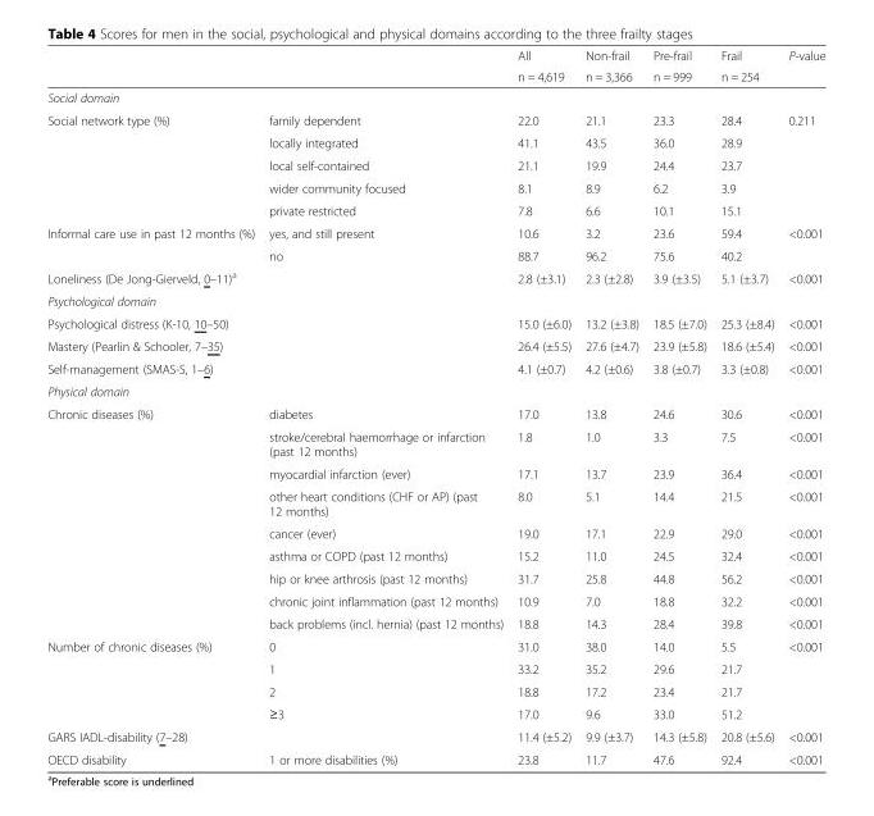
<table><thead><tr><td rowspan="2"></td><td rowspan="2"></td><td rowspan="2">All n = 4,619</td><td rowspan="2">Non-frail n = 3,366</td><td rowspan="2">Pre-frail n = 999</td><td rowspan="2">Frail n = 254</td><td rowspan="2">P-value</td></tr><tr></tr></thead><tbody><tr><td colspan="7">Social domain</td></tr><tr><td rowspan="5">Social network type (%)</td><td>family dependent</td><td>22.0</td><td>21.1</td><td>23.3</td><td>28.4</td><td rowspan="5">0.211</td></tr><tr><td>locally integrated</td><td>41.1</td><td>43.5</td><td>36.0</td><td>28.9</td></tr><tr><td>local self-contained</td><td>21.1</td><td>19.9</td><td>24.4</td><td>23.7</td></tr><tr><td>wider community focused</td><td>8.1</td><td>8.9</td><td>6.2</td><td>3.9</td></tr><tr><td>private restricted</td><td>7.8</td><td>6.6</td><td>10.1</td><td>15.1</td></tr><tr><td rowspan="2">Informal care use in past 12 months (%)</td><td>yes, and still present</td><td>10.6</td><td>3.2</td><td>23.6</td><td>59.4</td><td rowspan="2">&lt;0.001</td></tr><tr><td>no</td><td>88.7</td><td>96.2</td><td>75.6</td><td>40.2</td></tr><tr><td>Loneliness (De Jong-Gierveld, 0–11)<sup>a</sup></td><td></td><td>2.8 (±3.1)</td><td>2.3 (±2.8)</td><td>3.9 (±3.5)</td><td>5.1 (±3.7)</td><td>&lt;0.001</td></tr><tr><td colspan="7">Psychological domain</td></tr><tr><td>Psychological distress (K-10, 10–50)</td><td></td><td>15.0 (±6.0)</td><td>13.2 (±3.8)</td><td>18.5 (±7.0)</td><td>25.3 (±8.4)</td><td>&lt;0.001</td></tr><tr><td>Mastery (Pearlin &amp; Schooler, 7–35)</td><td></td><td>26.4 (±5.5)</td><td>27.6 (±4.7)</td><td>23.9 (±5.8)</td><td>18.6 (±5.4)</td><td>&lt;0.001</td></tr><tr><td>Self-management (SMAS-S, 1–6)</td><td></td><td>4.1 (±0.7)</td><td>4.2 (±0.6)</td><td>3.8 (±0.7)</td><td>3.3 (±0.8)</td><td>&lt;0.001</td></tr><tr><td colspan="7">Physical domain</td></tr><tr><td rowspan="9">Chronic diseases (%)</td><td>diabetes</td><td>17.0</td><td>13.8</td><td>24.6</td><td>30.6</td><td>&lt;0.001</td></tr><tr><td>stroke/cerebral haemorrhage or infarction (past 12 months)</td><td>1.8</td><td>1.0</td><td>3.3</td><td>7.5</td><td>&lt;0.001</td></tr><tr><td>myocardial infarction (ever)</td><td>17.1</td><td>13.7</td><td>23.9</td><td>36.4</td><td>&lt;0.001</td></tr><tr><td>other heart conditions (CHF or AP) (past 12 months)</td><td>8.0</td><td>5.1</td><td>14.4</td><td>21.5</td><td>&lt;0.001</td></tr><tr><td>cancer (ever)</td><td>19.0</td><td>17.1</td><td>22.9</td><td>29.0</td><td>&lt;0.001</td></tr><tr><td>asthma or COPD (past 12 months)</td><td>15.2</td><td>11.0</td><td>24.5</td><td>32.4</td><td>&lt;0.001</td></tr><tr><td>hip or knee arthrosis (past 12 months)</td><td>31.7</td><td>25.8</td><td>44.8</td><td>56.2</td><td>&lt;0.001</td></tr><tr><td>chronic joint inflammation (past 12 months)</td><td>10.9</td><td>7.0</td><td>18.8</td><td>32.2</td><td>&lt;0.001</td></tr><tr><td>back problems (incl. hernia) (past 12 months)</td><td>18.8</td><td>14.3</td><td>28.4</td><td>39.8</td><td>&lt;0.001</td></tr><tr><td rowspan="4">Number of chronic diseases (%)</td><td>0</td><td>31.0</td><td>38.0</td><td>14.0</td><td>5.5</td><td rowspan="4">&lt;0.001</td></tr><tr><td>1</td><td>33.2</td><td>35.2</td><td>29.6</td><td>21.7</td></tr><tr><td>2</td><td>18.8</td><td>17.2</td><td>23.4</td><td>21.7</td></tr><tr><td>≥3</td><td>17.0</td><td>9.6</td><td>33.0</td><td>51.2</td></tr><tr><td>GARS IADL-disability (7–28)</td><td></td><td>11.4 (±5.2)</td><td>9.9 (±3.7)</td><td>14.3 (±5.8)</td><td>20.8 (±5.6)</td><td>&lt;0.001</td></tr><tr><td>OECD disability</td><td>1 or more disabilities (%)</td><td>23.8</td><td>11.7</td><td>47.6</td><td>92.4</td><td>&lt;0.001</td></tr></tbody></table>